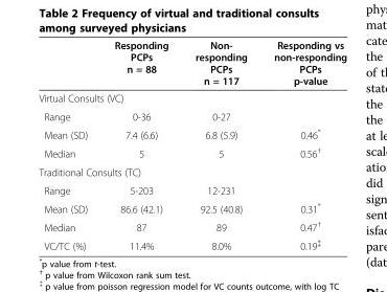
<table><thead><tr><td></td><td>Responding PCPs n = 88</td><td>Non- responding PCPs n = 117</td><td>Responding vs non-responding PCPs p-value</td></tr></thead><tbody><tr><td colspan="4">Virtual Consults (VC)</td></tr><tr><td>Range</td><td>0-36</td><td>0-27</td><td></td></tr><tr><td>Mean (SD)</td><td>7.4 (6.6)</td><td>6.8 (5.9)</td><td>0.46*</td></tr><tr><td>Median</td><td>5</td><td>5</td><td>0.56<sup>†</sup></td></tr><tr><td colspan="4">Traditional Consults (TC)</td></tr><tr><td>Range</td><td>5-203</td><td>12-231</td><td></td></tr><tr><td>Mean (SD)</td><td>86.6 (42.1)</td><td>92.5 (40.8)</td><td>0.31*</td></tr><tr><td>Median</td><td>87</td><td>89</td><td>0.47<sup>†</sup></td></tr><tr><td>VC/TC (%)</td><td>11.4%</td><td>8.0%</td><td>0.19<sup>‡</sup></td></tr></tbody></table>